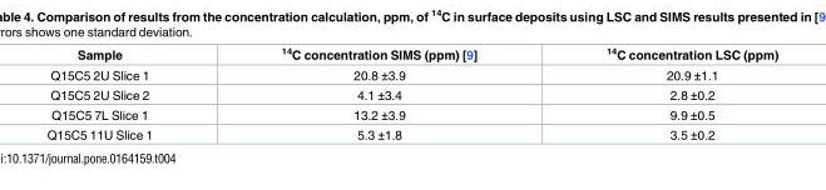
<table><thead><tr><td>Sample</td><td><sup>14</sup>C concentration SIMS (ppm) [9]</td><td><sup>14</sup>C concentration LSC (ppm)</td></tr></thead><tbody><tr><td>Q15C5 2U Slice 1</td><td>20.8 ±3.9</td><td>20.9 ±1.1</td></tr><tr><td>Q15C5 2U Slice 2</td><td>4.1 ±3.4</td><td>2.8 ±0.2</td></tr><tr><td>Q15C5 7L Slice 1</td><td>13.2 ±3.9</td><td>9.9 ±0.5</td></tr><tr><td>Q15C5 11U Slice 1</td><td>5.3 ±1.8</td><td>3.5 ±0.2</td></tr></tbody></table>